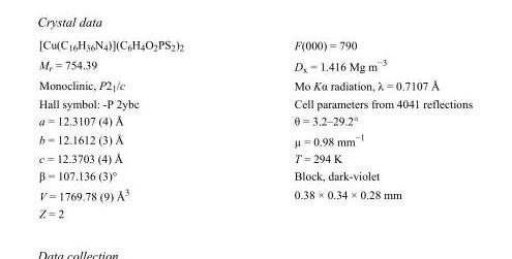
<table><tbody><tr><td>[Cu(C<sub>16</sub>H<sub>36</sub>N<sub>4</sub>)](C<sub>6</sub>H<sub>4</sub>O<sub>2</sub>PS<sub>2</sub>)<sub>2</sub></td><td>F(000) = 790</td></tr><tr><td>M<sub>r</sub> = 754.39</td><td>D<sub>x</sub> = 1.416 Mg m<sup>−3</sup></td></tr><tr><td>Monoclinic, P2<sub>1</sub>/c</td><td>Mo Kα radiation, λ = 0.7107 Å</td></tr><tr><td>Hall symbol: -P 2ybc</td><td>Cell parameters from 4041 reflections</td></tr><tr><td>a = 12.3107 (4) Å</td><td>θ = 3.2–29.2°</td></tr><tr><td>b = 12.1612 (3) Å</td><td>µ = 0.98 mm<sup>−1</sup></td></tr><tr><td>c = 12.3703 (4) Å</td><td>T = 294 K</td></tr><tr><td>β = 107.136 (3)°</td><td>Block, dark-violet</td></tr><tr><td>V = 1769.78 (9) Å<sup>3</sup></td><td>0.38 × 0.34 × 0.28 mm</td></tr><tr><td>Z = 2</td><td></td></tr></tbody></table>